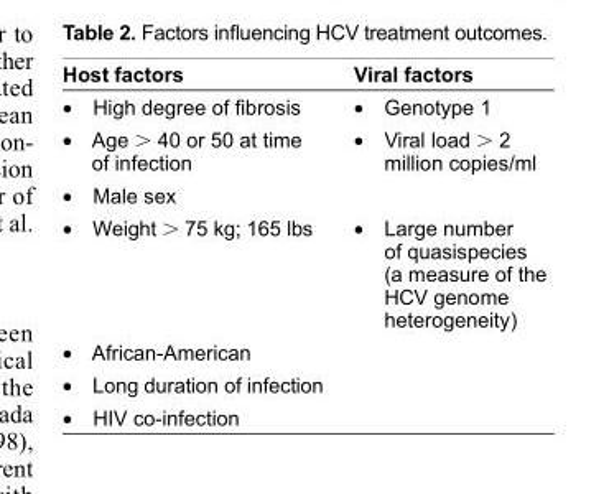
<table><thead><tr><td>Host factors</td><td>Viral factors</td></tr></thead><tbody><tr><td>• High degree of fi brosis</td><td>• Genotype 1</td></tr><tr><td>• Age &gt; 40 or 50 at time of infection</td><td>• Viral load &gt; 2 million copies/ml</td></tr><tr><td colspan="2">• Male sex</td></tr><tr><td>• Weight &gt; 75 kg; 165 lbs</td><td>• Large number of quasispecies (a measure of the HCV genome heterogeneity)</td></tr><tr><td colspan="2">• African-American</td></tr><tr><td colspan="2">• Long duration of infection</td></tr><tr><td>• HIV co-infection</td><td></td></tr></tbody></table>